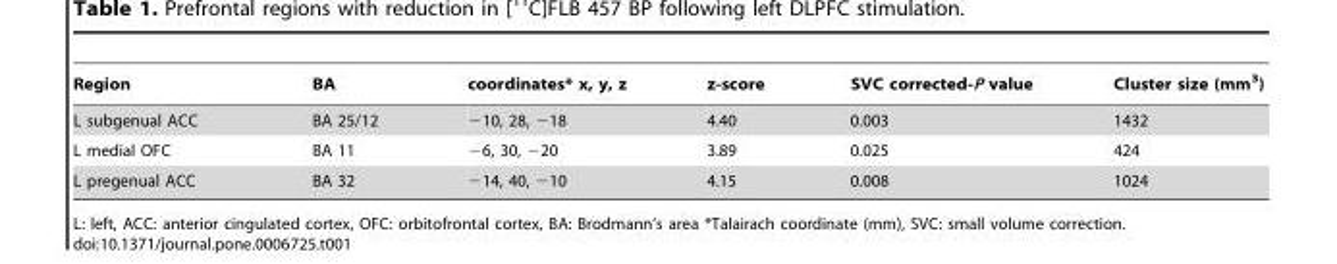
<table><thead><tr><td>Region</td><td>BA</td><td>coordinates* x, y, z</td><td>z-score</td><td>SVC corrected-P value</td><td>Cluster size (mm<sup>3</sup>)</td></tr></thead><tbody><tr><td>L subgenual ACC</td><td>BA 25/12</td><td>−10, 28, −18</td><td>4.40</td><td>0.003</td><td>1432</td></tr><tr><td>L medial OFC</td><td>BA 11</td><td>−6, 30, −20</td><td>3.89</td><td>0.025</td><td>424</td></tr><tr><td>L pregenual ACC</td><td>BA 32</td><td>−14, 40, −10</td><td>4.15</td><td>0.008</td><td>1024</td></tr></tbody></table>